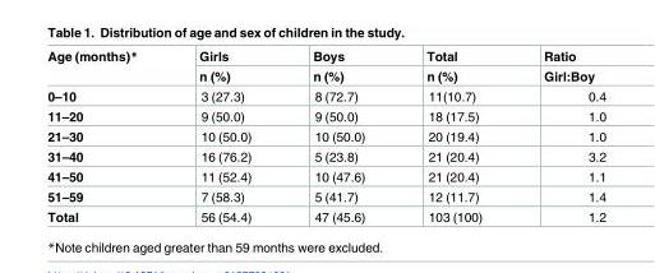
<table><thead><tr><td rowspan="2">Age (months)*</td><td rowspan="2">Girls n (%)</td><td rowspan="2">Boys n (%)</td><td rowspan="2">Total n (%)</td><td rowspan="2">Ratio Girl:Boy</td></tr><tr></tr></thead><tbody><tr><td>0–10</td><td>3 (27.3)</td><td>8 (72.7)</td><td>11(10.7)</td><td>0.4</td></tr><tr><td>11–20</td><td>9 (50.0)</td><td>9 (50.0)</td><td>18 (17.5)</td><td>1.0</td></tr><tr><td>21–30</td><td>10 (50.0)</td><td>10 (50.0)</td><td>20 (19.4)</td><td>1.0</td></tr><tr><td>31–40</td><td>16 (76.2)</td><td>5 (23.8)</td><td>21 (20.4)</td><td>3.2</td></tr><tr><td>41–50</td><td>11 (52.4)</td><td>10 (47.6)</td><td>21 (20.4)</td><td>1.1</td></tr><tr><td>51–59</td><td>7 (58.3)</td><td>5 (41.7)</td><td>12 (11.7)</td><td>1.4</td></tr><tr><td>Total</td><td>56 (54.4)</td><td>47 (45.6)</td><td>103 (100)</td><td>1.2</td></tr></tbody></table>